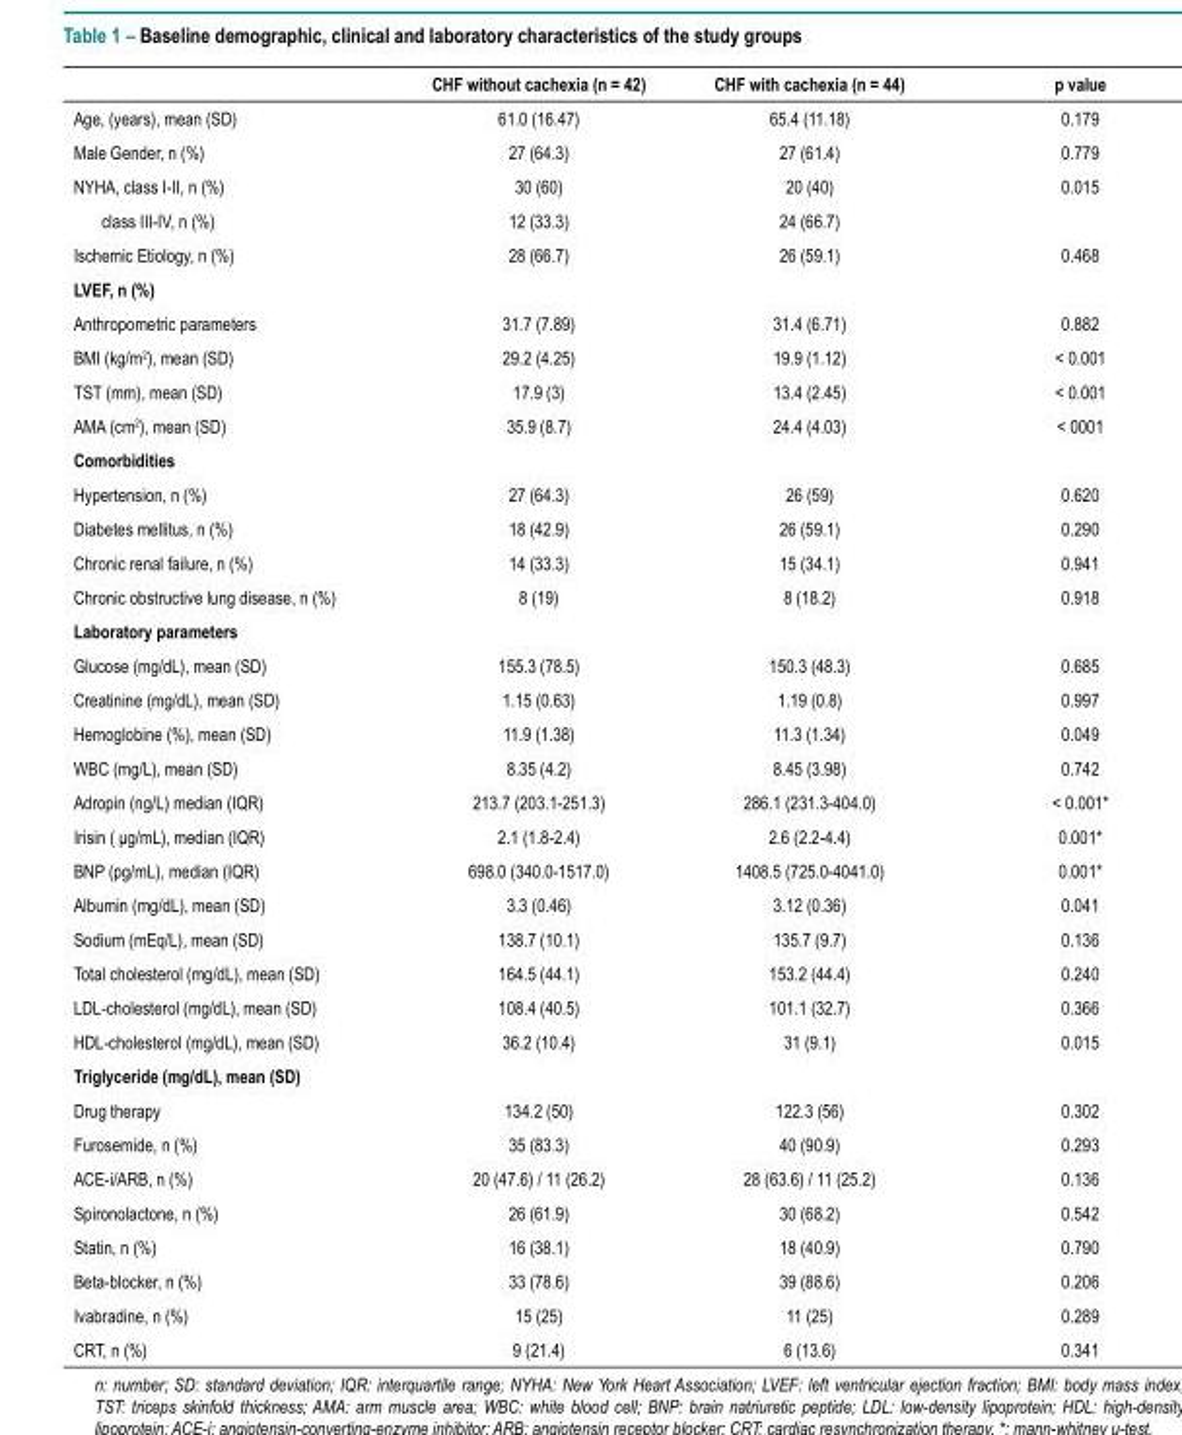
<table><thead><tr><td></td><td>CHF without cachexia (n = 42)</td><td>CHF with cachexia (n = 44)</td><td>p value</td></tr></thead><tbody><tr><td>Age, (years), mean (SD)</td><td>61.0 (16.47)</td><td>65.4 (11.18)</td><td>0.179</td></tr><tr><td>Male Gender, n (%)</td><td>27 (64.3)</td><td>27 (61.4)</td><td>0.779</td></tr><tr><td>NYHA, class I-II, n (%)</td><td>30 (60)</td><td>20 (40)</td><td>0.015</td></tr><tr><td>class III-IV, n (%)</td><td>12 (33.3)</td><td>24 (66.7)</td><td></td></tr><tr><td>Ischemic Etiology, n (%)</td><td>28 (66.7)</td><td>26 (59.1)</td><td>0.468</td></tr><tr><td colspan="4">LVEF, n (%)</td></tr><tr><td>Anthropometric parameters</td><td>31.7 (7.89)</td><td>31.4 (6.71)</td><td>0.882</td></tr><tr><td>BMI (kg/m<sup>2</sup>), mean (SD)</td><td>29.2 (4.25)</td><td>19.9 (1.12)</td><td>&lt; 0.001</td></tr><tr><td>TST (mm), mean (SD)</td><td>17.9 (3)</td><td>13.4 (2.45)</td><td>&lt; 0.001</td></tr><tr><td>AMA (cm<sup>2</sup>), mean (SD)</td><td>35.9 (8.7)</td><td>24.4 (4.03)</td><td>&lt; 0001</td></tr><tr><td colspan="4">Comorbidities</td></tr><tr><td>Hypertension, n (%)</td><td>27 (64.3)</td><td>26 (59)</td><td>0.620</td></tr><tr><td>Diabetes mellitus, n (%)</td><td>18 (42.9)</td><td>26 (59.1)</td><td>0.290</td></tr><tr><td>Chronic renal failure, n (%)</td><td>14 (33.3)</td><td>15 (34.1)</td><td>0.941</td></tr><tr><td>Chronic obstructive lung disease, n (%)</td><td>8 (19)</td><td>8 (18.2)</td><td>0.918</td></tr><tr><td colspan="4">Laboratory parameters</td></tr><tr><td>Glucose (mg/dL), mean (SD)</td><td>155.3 (78.5)</td><td>150.3 (48.3)</td><td>0.685</td></tr><tr><td>Creatinine (mg/dL), mean (SD)</td><td>1.15 (0.63)</td><td>1.19 (0.8)</td><td>0.997</td></tr><tr><td>Hemoglobine (%), mean (SD)</td><td>11.9 (1.38)</td><td>11.3 (1.34)</td><td>0.049</td></tr><tr><td>WBC (mg/L), mean (SD)</td><td>8.35 (4.2)</td><td>8.45 (3.98)</td><td>0.742</td></tr><tr><td>Adropin (ng/L) median (IQR)</td><td>213.7 (203.1-251.3)</td><td>286.1 (231.3-404.0)</td><td>&lt; 0.001*</td></tr><tr><td>Irisin ( μg/mL), median (IQR)</td><td>2.1 (1.8-2.4)</td><td>2.6 (2.2-4.4)</td><td>0.001*</td></tr><tr><td>BNP (pg/mL), median (IQR)</td><td>698.0 (340.0-1517.0)</td><td>1408.5 (725.0-4041.0)</td><td>0.001*</td></tr><tr><td>Albumin (mg/dL), mean (SD)</td><td>3.3 (0.46)</td><td>3.12 (0.36)</td><td>0.041</td></tr><tr><td>Sodium (mEq/L), mean (SD)</td><td>138.7 (10.1)</td><td>135.7 (9.7)</td><td>0.136</td></tr><tr><td>Total cholesterol (mg/dL), mean (SD)</td><td>164.5 (44.1)</td><td>153.2 (44.4)</td><td>0.240</td></tr><tr><td>LDL-cholesterol (mg/dL), mean (SD)</td><td>108.4 (40.5)</td><td>101.1 (32.7)</td><td>0.366</td></tr><tr><td>HDL-cholesterol (mg/dL), mean (SD)</td><td>36.2 (10.4)</td><td>31 (9.1)</td><td>0.015</td></tr><tr><td colspan="4">Triglyceride (mg/dL), mean (SD)</td></tr><tr><td>Drug therapy</td><td>134.2 (50)</td><td>122.3 (56)</td><td>0.302</td></tr><tr><td>Furosemide, n (%)</td><td>35 (83.3)</td><td>40 (90.9)</td><td>0.293</td></tr><tr><td>ACE-i/ARB, n (%)</td><td>20 (47.6) / 11 (26.2)</td><td>28 (63.6) / 11 (25.2)</td><td>0.136</td></tr><tr><td>Spironolactone, n (%)</td><td>26 (61.9)</td><td>30 (68.2)</td><td>0.542</td></tr><tr><td>Statin, n (%)</td><td>16 (38.1)</td><td>18 (40.9)</td><td>0.790</td></tr><tr><td>Beta-blocker, n (%)</td><td>33 (78.6)</td><td>39 (88.6)</td><td>0.206</td></tr><tr><td>Ivabradine, n (%)</td><td>15 (25)</td><td>11 (25)</td><td>0.289</td></tr><tr><td>CRT, n (%)</td><td>9 (21.4)</td><td>6 (13.6)</td><td>0.341</td></tr></tbody></table>